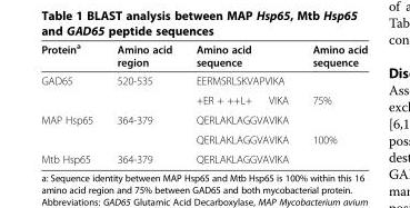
<table><thead><tr><td>Protein<sup>a</sup></td><td>Amino acid region</td><td>Amino acid sequence</td><td>Amino acid sequence</td></tr></thead><tbody><tr><td rowspan="2">GAD65</td><td>520-535</td><td>EERMSRLSKVAPVIKA</td><td></td></tr><tr><td></td><td>+ER + ++L+ VIKA</td><td>75%</td></tr><tr><td rowspan="2">MAP Hsp65</td><td>364-379</td><td>QERLAKLAGGVAVIKA</td><td></td></tr><tr><td></td><td>QERLAKLAGGVAVIKA</td><td>100%</td></tr><tr><td>Mtb Hsp65</td><td>364-379</td><td>QERLAKLAGGVAVIKA</td><td></td></tr></tbody></table>